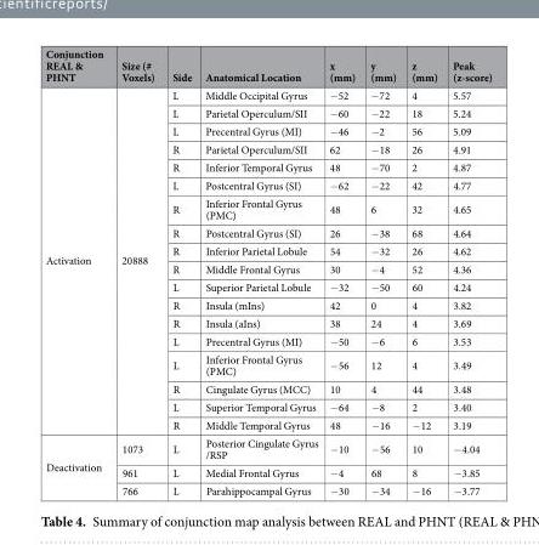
<table><thead><tr><td>Conjunction REAL &amp; PHNT</td><td>Size (# Voxels)</td><td>Side</td><td>Anatomical Location</td><td>x (mm)</td><td>y (mm)</td><td>z (mm)</td><td>Peak (z-score)</td></tr></thead><tbody><tr><td rowspan="18">Activation</td><td rowspan="18">20888</td><td>L</td><td>Middle Occipital Gyrus</td><td>−52</td><td>−72</td><td>4</td><td>5.57</td></tr><tr><td>L</td><td>Parietal Operculum/SII</td><td>−60</td><td>−22</td><td>18</td><td>5.24</td></tr><tr><td>L</td><td>Precentral Gyrus (MI)</td><td>−46</td><td>−2</td><td>56</td><td>5.09</td></tr><tr><td>R</td><td>Parietal Operculum/SII</td><td>62</td><td>−18</td><td>26</td><td>4.91</td></tr><tr><td>R</td><td>Inferior Temporal Gyrus</td><td>48</td><td>−70</td><td>2</td><td>4.87</td></tr><tr><td>L</td><td>Postcentral Gyrus (SI)</td><td>−62</td><td>−22</td><td>42</td><td>4.77</td></tr><tr><td>R</td><td>Inferior Frontal Gyrus (PMC)</td><td>48</td><td>6</td><td>32</td><td>4.65</td></tr><tr><td>R</td><td>Postcentral Gyrus (SI)</td><td>26</td><td>−38</td><td>68</td><td>4.64</td></tr><tr><td>R</td><td>Inferior Parietal Lobule</td><td>54</td><td>−32</td><td>26</td><td>4.62</td></tr><tr><td>R</td><td>Middle Frontal Gyrus</td><td>30</td><td>−4</td><td>52</td><td>4.36</td></tr><tr><td>L</td><td>Superior Parietal Lobule</td><td>−32</td><td>−50</td><td>60</td><td>4.24</td></tr><tr><td>R</td><td>Insula (mIns)</td><td>42</td><td>0</td><td>4</td><td>3.82</td></tr><tr><td>R</td><td>Insula (aIns)</td><td>38</td><td>24</td><td>4</td><td>3.69</td></tr><tr><td>L</td><td>Precentral Gyrus (MI)</td><td>−50</td><td>−6</td><td>6</td><td>3.53</td></tr><tr><td>L</td><td>Inferior Frontal Gyrus (PMC)</td><td>−56</td><td>12</td><td>4</td><td>3.49</td></tr><tr><td>R</td><td>Cingulate Gyrus (MCC)</td><td>10</td><td>4</td><td>44</td><td>3.48</td></tr><tr><td>L</td><td>Superior Temporal Gyrus</td><td>−64</td><td>−8</td><td>2</td><td>3.40</td></tr><tr><td>R</td><td>Middle Temporal Gyrus</td><td>48</td><td>−16</td><td>−12</td><td>3.19</td></tr><tr><td rowspan="3">Deactivation</td><td>1073</td><td>L</td><td>Posterior Cingulate Gyrus /RSP</td><td>−10</td><td>−56</td><td>10</td><td>−4.04</td></tr><tr><td>961</td><td>L</td><td>Medial Frontal Gyrus</td><td>−4</td><td>68</td><td>8</td><td>−3.85</td></tr><tr><td>766</td><td>L</td><td>Parahippocampal Gyrus</td><td>−30</td><td>−34</td><td>−16</td><td>−3.77</td></tr></tbody></table>